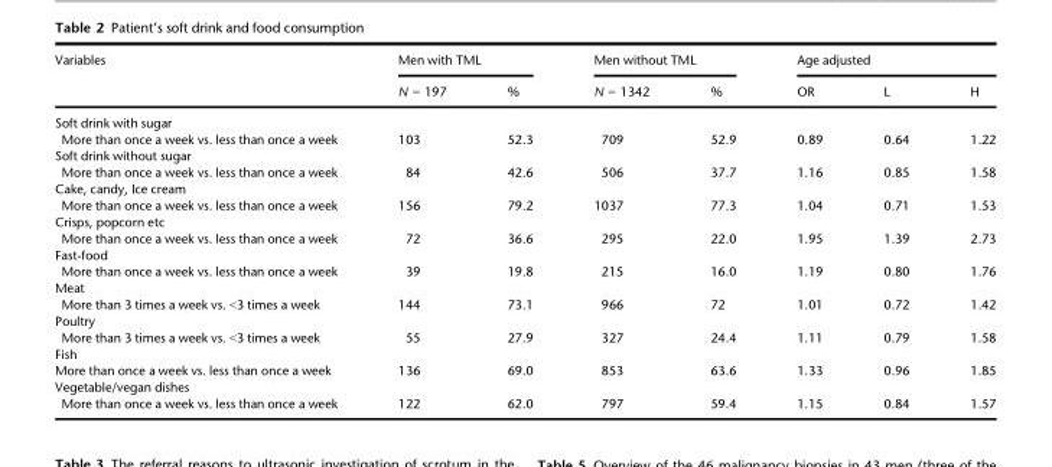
<table><thead><tr><td rowspan="2">Variables</td><td colspan="2">Men with TML</td><td colspan="2">Men without TML</td><td colspan="3">Age adjusted</td></tr><tr><td>N = 197</td><td>%</td><td>N = 1342</td><td>%</td><td>OR</td><td>L</td><td>H</td></tr></thead><tbody><tr><td colspan="8">Soft drink with sugar</td></tr><tr><td>More than once a week vs. less than once a week</td><td>103</td><td>52.3</td><td>709</td><td>52.9</td><td>0.89</td><td>0.64</td><td>1.22</td></tr><tr><td colspan="8">Soft drink without sugar</td></tr><tr><td>More than once a week vs. less than once a week</td><td>84</td><td>42.6</td><td>506</td><td>37.7</td><td>1.16</td><td>0.85</td><td>1.58</td></tr><tr><td colspan="8">Cake, candy, Ice cream</td></tr><tr><td>More than once a week vs. less than once a week</td><td>156</td><td>79.2</td><td>1037</td><td>77.3</td><td>1.04</td><td>0.71</td><td>1.53</td></tr><tr><td colspan="8">Crisps, popcorn etc</td></tr><tr><td>More than once a week vs. less than once a week</td><td>72</td><td>36.6</td><td>295</td><td>22.0</td><td>1.95</td><td>1.39</td><td>2.73</td></tr><tr><td colspan="8">Fast-food</td></tr><tr><td>More than once a week vs. less than once a week</td><td>39</td><td>19.8</td><td>215</td><td>16.0</td><td>1.19</td><td>0.80</td><td>1.76</td></tr><tr><td colspan="8">Meat</td></tr><tr><td>More than 3 times a week vs. &lt;3 times a week</td><td>144</td><td>73.1</td><td>966</td><td>72</td><td>1.01</td><td>0.72</td><td>1.42</td></tr><tr><td colspan="8">Poultry</td></tr><tr><td>More than 3 times a week vs. &lt;3 times a week</td><td>55</td><td>27.9</td><td>327</td><td>24.4</td><td>1.11</td><td>0.79</td><td>1.58</td></tr><tr><td colspan="8">Fish</td></tr><tr><td>More than once a week vs. less than once a week</td><td>136</td><td>69.0</td><td>853</td><td>63.6</td><td>1.33</td><td>0.96</td><td>1.85</td></tr><tr><td colspan="8">Vegetable/vegan dishes</td></tr><tr><td>More than once a week vs. less than once a week</td><td>122</td><td>62.0</td><td>797</td><td>59.4</td><td>1.15</td><td>0.84</td><td>1.57</td></tr></tbody></table>